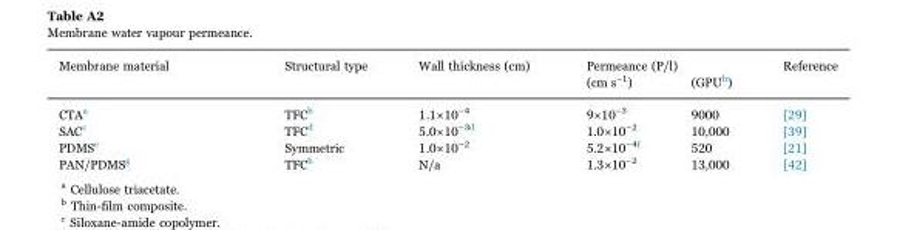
<table><thead><tr><td rowspan="2">Membrane material</td><td rowspan="2">Structural type</td><td rowspan="2">Wall thickness (cm)</td><td colspan="2">Permeance (P/l)</td><td rowspan="2">Reference</td></tr><tr><td>(cm s−1)</td><td>(GPUh)</td></tr></thead><tbody><tr><td>CTAa</td><td>TFCb</td><td>1.1×10−4</td><td>9×10−3</td><td>9000</td><td>[29]</td></tr><tr><td>SACc</td><td>TFCd</td><td>5.0×10−3d</td><td>1.0×10−2</td><td>10,000</td><td>[39]</td></tr><tr><td>PDMSe</td><td>Symmetric</td><td>1.0×10−2</td><td>5.2×10−4f</td><td>520</td><td>[21]</td></tr><tr><td>PAN/PDMSg</td><td>TFCb</td><td>N/a</td><td>1.3×10−2</td><td>13,000</td><td>[42]</td></tr></tbody></table>